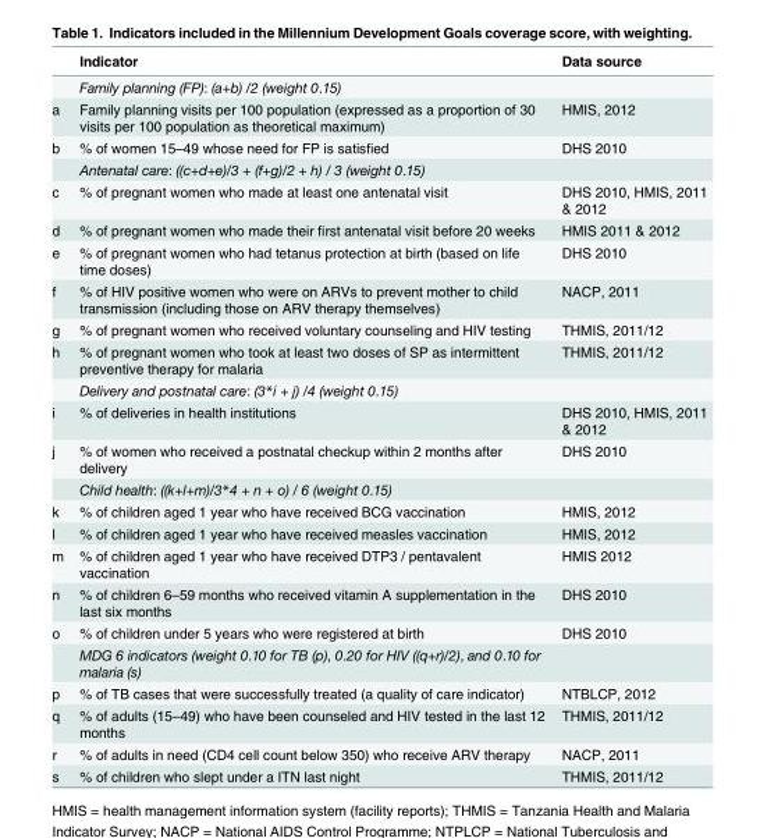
<table><thead><tr><td></td><td>Indicator</td><td>Data source</td></tr></thead><tbody><tr><td></td><td>Family planning (FP): (a+b) /2 (weight 0.15)</td><td></td></tr><tr><td>a</td><td>Family planning visits per 100 population (expressed as a proportion of 30 visits per 100 population as theoretical maximum)</td><td>HMIS, 2012</td></tr><tr><td rowspan="2">b</td><td>% of women 15–49 whose need for FP is satisfied</td><td>DHS 2010</td></tr><tr><td>Antenatal care: ((c+d+e)/3 + (f+g)/2 + h) / 3 (weight 0.15)</td><td></td></tr><tr><td>c</td><td>% of pregnant women who made at least one antenatal visit</td><td>DHS 2010, HMIS, 2011 &amp; 2012</td></tr><tr><td>d</td><td>% of pregnant women who made their first antenatal visit before 20 weeks</td><td>HMIS 2011 &amp; 2012</td></tr><tr><td>e</td><td>% of pregnant women who had tetanus protection at birth (based on life time doses)</td><td>DHS 2010</td></tr><tr><td>f</td><td>% of HIV positive women who were on ARVs to prevent mother to child transmission (including those on ARV therapy themselves)</td><td>NACP, 2011</td></tr><tr><td>g</td><td>% of pregnant women who received voluntary counseling and HIV testing</td><td>THMIS, 2011/12</td></tr><tr><td rowspan="2">h</td><td>% of pregnant women who took at least two doses of SP as intermittent preventive therapy for malaria</td><td>THMIS, 2011/12</td></tr><tr><td>Delivery and postnatal care: (3*i + j) /4 (weight 0.15)</td><td></td></tr><tr><td>i</td><td>% of deliveries in health institutions</td><td>DHS 2010, HMIS, 2011 &amp; 2012</td></tr><tr><td rowspan="2">j</td><td>% of women who received a postnatal checkup within 2 months after delivery</td><td>DHS 2010</td></tr><tr><td>Child health: ((k+l+m)/3*4 + n + o) / 6 (weight 0.15)</td><td></td></tr><tr><td>k</td><td>% of children aged 1 year who have received BCG vaccination</td><td>HMIS, 2012</td></tr><tr><td>l</td><td>% of children aged 1 year who have received measles vaccination</td><td>HMIS, 2012</td></tr><tr><td>m</td><td>% of children aged 1 year who have received DTP3 / pentavalent vaccination</td><td>HMIS 2012</td></tr><tr><td>n</td><td>% of children 6–59 months who received vitamin A supplementation in the last six months</td><td>DHS 2010</td></tr><tr><td rowspan="2">o</td><td>% of children under 5 years who were registered at birth</td><td>DHS 2010</td></tr><tr><td>MDG 6 indicators (weight 0.10 for TB (p), 0.20 for HIV ((q+r)/2), and 0.10 for malaria (s)</td><td></td></tr><tr><td>p</td><td>% of TB cases that were successfully treated (a quality of care indicator)</td><td>NTBLCP, 2012</td></tr><tr><td>q</td><td>% of adults (15–49) who have been counseled and HIV tested in the last 12 months</td><td>THMIS, 2011/12</td></tr><tr><td>r</td><td>% of adults in need (CD4 cell count below 350) who receive ARV therapy</td><td>NACP, 2011</td></tr><tr><td>s</td><td>% of children who slept under a ITN last night</td><td>THMIS, 2011/12</td></tr></tbody></table>